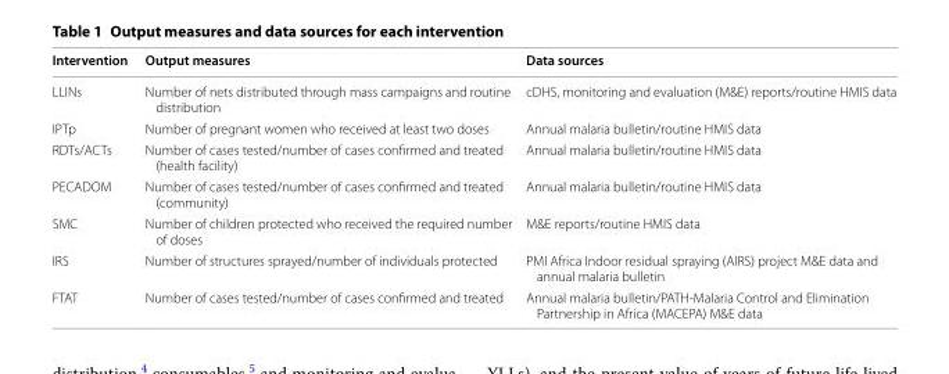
<table><thead><tr><td>Intervention</td><td>Output measures</td><td>Data sources</td></tr></thead><tbody><tr><td>LLINs</td><td>Number of nets distributed through mass campaigns and routine distribution</td><td>cDHS, monitoring and evaluation (M&amp;E) reports/routine HMIS data</td></tr><tr><td>IPTp</td><td>Number of pregnant women who received at least two doses</td><td>Annual malaria bulletin/routine HMIS data</td></tr><tr><td>RDTs/ACTs</td><td>Number of cases tested/number of cases confirmed and treated (health facility)</td><td>Annual malaria bulletin/routine HMIS data</td></tr><tr><td>PECADOM</td><td>Number of cases tested/number of cases confirmed and treated (community)</td><td>Annual malaria bulletin/routine HMIS data</td></tr><tr><td>SMC</td><td>Number of children protected who received the required number of doses</td><td>M&amp;E reports/routine HMIS data</td></tr><tr><td>IRS</td><td>Number of structures sprayed/number of individuals protected</td><td>PMI Africa Indoor residual spraying (AIRS) project M&amp;E data and annual malaria bulletin</td></tr><tr><td>FTAT</td><td>Number of cases tested/number of cases confirmed and treated</td><td>Annual malaria bulletin/PATH-Malaria Control and Elimination Partnership in Africa (MACEPA) M&amp;E data</td></tr></tbody></table>